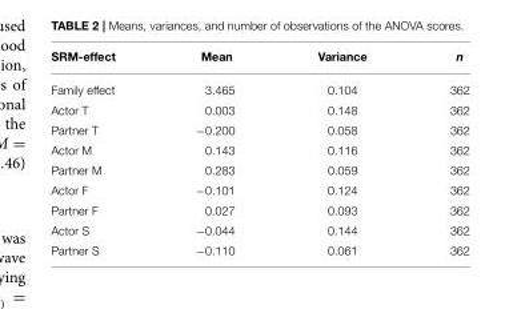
<table><thead><tr><td>SRM-effect</td><td>Mean</td><td>Variance</td><td>n</td></tr></thead><tbody><tr><td>Family effect</td><td>3.465</td><td>0.104</td><td>362</td></tr><tr><td>Actor T</td><td>0.003</td><td>0.148</td><td>362</td></tr><tr><td>Partner T</td><td>−0.200</td><td>0.058</td><td>362</td></tr><tr><td>Actor M</td><td>0.143</td><td>0.116</td><td>362</td></tr><tr><td>Partner M</td><td>0.283</td><td>0.059</td><td>362</td></tr><tr><td>Actor F</td><td>−0.101</td><td>0.124</td><td>362</td></tr><tr><td>Partner F</td><td>0.027</td><td>0.093</td><td>362</td></tr><tr><td>Actor S</td><td>−0.044</td><td>0.144</td><td>362</td></tr><tr><td>Partner S</td><td>−0.110</td><td>0.061</td><td>362</td></tr></tbody></table>